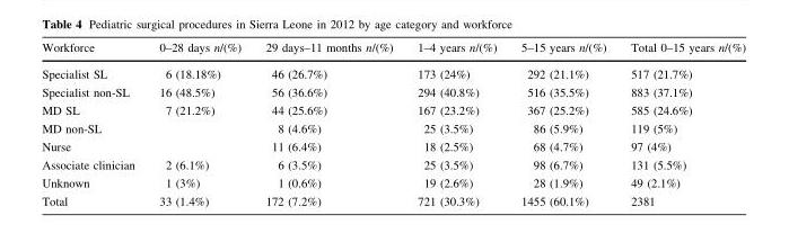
<table><thead><tr><td>Workforce</td><td>0–28 days n/(%)</td><td>29 days–11 months n/(%)</td><td>1–4 years n/(%)</td><td>5–15 years n/(%)</td><td>Total 0–15 years n/(%)</td></tr></thead><tbody><tr><td>Specialist SL</td><td>6 (18.18%)</td><td>46 (26.7%)</td><td>173 (24%)</td><td>292 (21.1%)</td><td>517 (21.7%)</td></tr><tr><td>Specialist non-SL</td><td>16 (48.5%)</td><td>56 (36.6%)</td><td>294 (40.8%)</td><td>516 (35.5%)</td><td>883 (37.1%)</td></tr><tr><td>MD SL</td><td>7 (21.2%)</td><td>44 (25.6%)</td><td>167 (23.2%)</td><td>367 (25.2%)</td><td>585 (24.6%)</td></tr><tr><td>MD non-SL</td><td></td><td>8 (4.6%)</td><td>25 (3.5%)</td><td>86 (5.9%)</td><td>119 (5%)</td></tr><tr><td>Nurse</td><td></td><td>11 (6.4%)</td><td>18 (2.5%)</td><td>68 (4.7%)</td><td>97 (4%)</td></tr><tr><td>Associate clinician</td><td>2 (6.1%)</td><td>6 (3.5%)</td><td>25 (3.5%)</td><td>98 (6.7%)</td><td>131 (5.5%)</td></tr><tr><td>Unknown</td><td>1 (3%)</td><td>1 (0.6%)</td><td>19 (2.6%)</td><td>28 (1.9%)</td><td>49 (2.1%)</td></tr><tr><td>Total</td><td>33 (1.4%)</td><td>172 (7.2%)</td><td>721 (30.3%)</td><td>1455 (60.1%)</td><td>2381</td></tr></tbody></table>